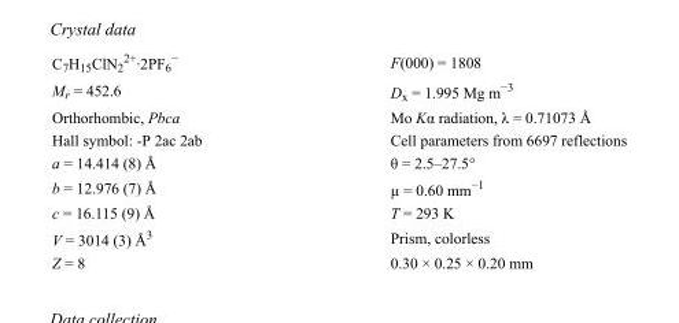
<table><tbody><tr><td>C<sub>7</sub>H<sub>15</sub>ClN<sub>2</sub> <sup>2+</sup>·2PF<sub>6</sub> <sup>−</sup></td><td>F(000) = 1808</td></tr><tr><td>M<sub>r</sub> = 452.6</td><td>D<sub>x</sub> = 1.995 Mg m<sup>−3</sup></td></tr><tr><td>Orthorhombic, Pbca</td><td>Mo Kα radiation, λ = 0.71073 Å</td></tr><tr><td>Hall symbol: -P 2ac 2ab</td><td>Cell parameters from 6697 reflections</td></tr><tr><td>a = 14.414 (8) Å</td><td>θ = 2.5–27.5°</td></tr><tr><td>b = 12.976 (7) Å</td><td>µ = 0.60 mm<sup>−1</sup></td></tr><tr><td>c = 16.115 (9) Å</td><td>T = 293 K</td></tr><tr><td>V = 3014 (3) Å<sup>3</sup></td><td>Prism, colorless</td></tr><tr><td>Z = 8</td><td>0.30 × 0.25 × 0.20 mm</td></tr></tbody></table>